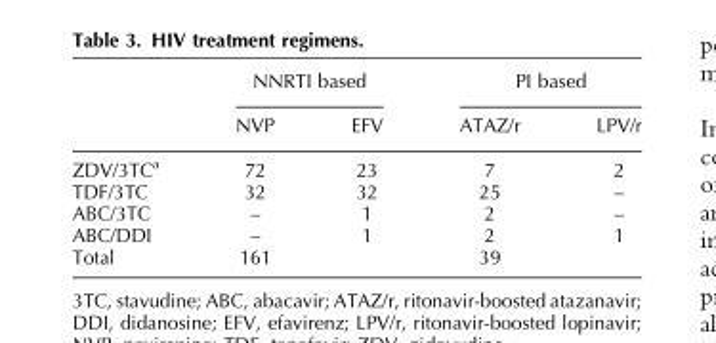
<table><thead><tr><td rowspan="2"></td><td colspan="2">NNRTI based</td><td colspan="2">PI based</td></tr><tr><td>NVP</td><td>EFV</td><td>ATAZ/r</td><td>LPV/r</td></tr></thead><tbody><tr><td>ZDV/3TC<sup>a</sup></td><td>72</td><td>23</td><td>7</td><td>2</td></tr><tr><td>TDF/3TC</td><td>32</td><td>32</td><td>25</td><td>–</td></tr><tr><td>ABC/3TC</td><td>–</td><td>1</td><td>2</td><td>–</td></tr><tr><td>ABC/DDI</td><td>–</td><td>1</td><td>2</td><td>1</td></tr><tr><td>Total</td><td>161</td><td></td><td>39</td><td></td></tr></tbody></table>